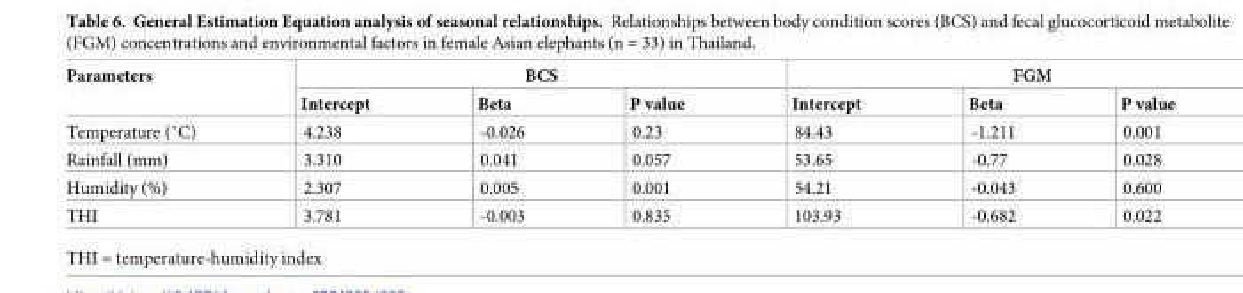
<table><thead><tr><td rowspan="2">Parameters</td><td colspan="3">BCS</td><td colspan="3">FGM</td></tr><tr><td>Intercept</td><td>Beta</td><td>P value</td><td>Intercept</td><td>Beta</td><td>P value</td></tr></thead><tbody><tr><td>Temperature (˚C)</td><td>4.238</td><td>-0.026</td><td>0.23</td><td>84.43</td><td>-1.211</td><td>0.001</td></tr><tr><td>Rainfall (mm)</td><td>3.310</td><td>0.041</td><td>0.057</td><td>53.65</td><td>-0.77</td><td>0.028</td></tr><tr><td>Humidity (%)</td><td>2.307</td><td>0.005</td><td>0.001</td><td>54.21</td><td>-0.043</td><td>0.600</td></tr><tr><td>THI</td><td>3.781</td><td>-0.003</td><td>0.835</td><td>103.93</td><td>-0.682</td><td>0.022</td></tr></tbody></table>